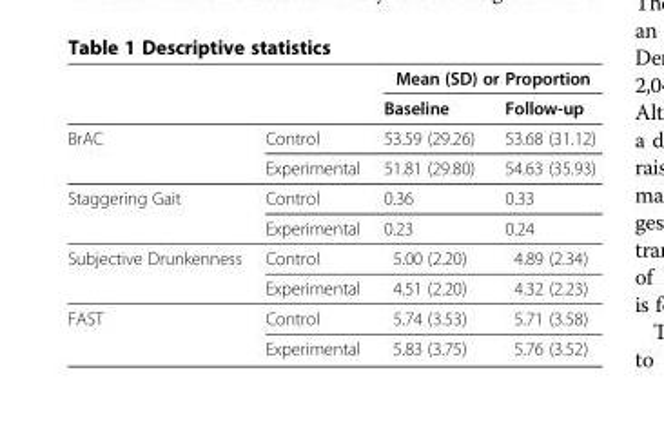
<table><thead><tr><td rowspan="2"></td><td rowspan="2"></td><td colspan="2">Mean (SD) or Proportion</td></tr><tr><td>Baseline</td><td>Follow-up</td></tr></thead><tbody><tr><td rowspan="2">BrAC</td><td>Control</td><td>53.59 (29.26)</td><td>53.68 (31.12)</td></tr><tr><td>Experimental</td><td>51.81 (29.80)</td><td>54.63 (35.93)</td></tr><tr><td rowspan="2">Staggering Gait</td><td>Control</td><td>0.36</td><td>0.33</td></tr><tr><td>Experimental</td><td>0.23</td><td>0.24</td></tr><tr><td rowspan="2">Subjective Drunkenness</td><td>Control</td><td>5.00 (2.20)</td><td>4.89 (2.34)</td></tr><tr><td>Experimental</td><td>4.51 (2.20)</td><td>4.32 (2.23)</td></tr><tr><td rowspan="2">FAST</td><td>Control</td><td>5.74 (3.53)</td><td>5.71 (3.58)</td></tr><tr><td>Experimental</td><td>5.83 (3.75)</td><td>5.76 (3.52)</td></tr></tbody></table>